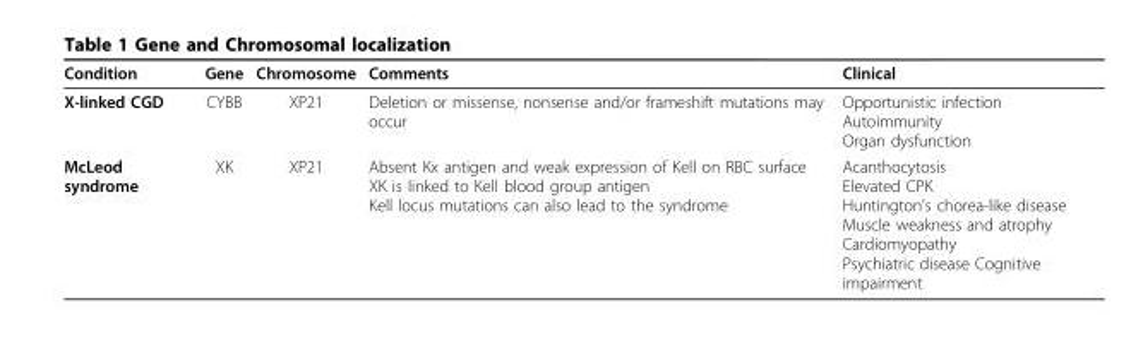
<table><thead><tr><td>Condition</td><td>Gene</td><td>Chromosome</td><td>Comments</td><td>Clinical</td></tr></thead><tbody><tr><td>X-linked CGD</td><td>CYBB</td><td>XP21</td><td>Deletion or missense, nonsense and/or frameshift mutations may occur</td><td>Opportunistic infection Autoimmunity Organ dysfunction</td></tr><tr><td>McLeod syndrome</td><td>XK</td><td>XP21</td><td>Absent Kx antigen and weak expression of Kell on RBC surface XK is linked to Kell blood group antigen Kell locus mutations can also lead to the syndrome</td><td>Acanthocytosis Elevated CPK Huntington’s chorea-like disease Muscle weakness and atrophy Cardiomyopathy Psychiatric disease Cognitive impairment</td></tr></tbody></table>